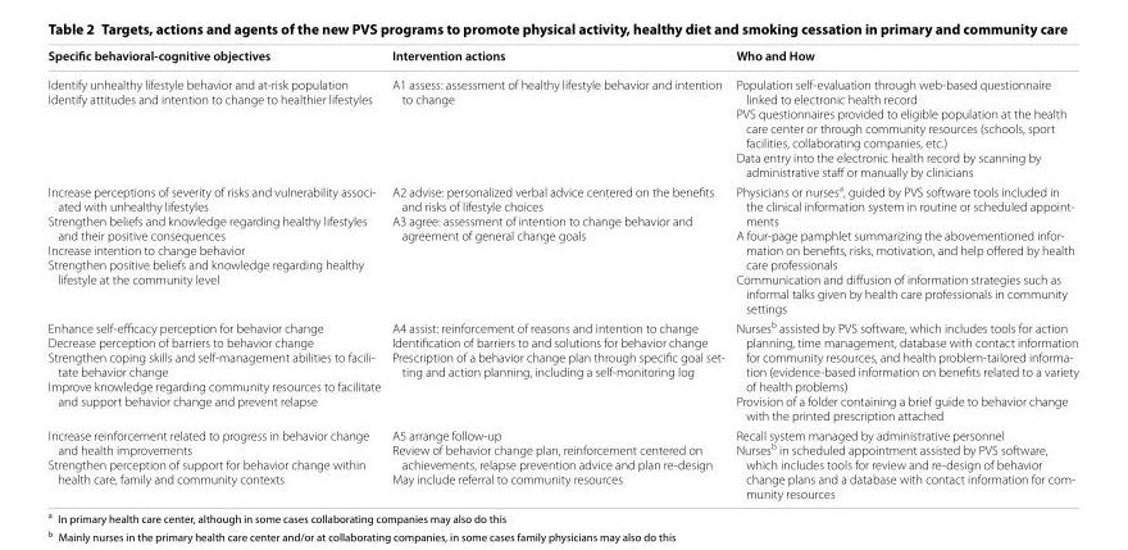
<table><thead><tr><td>Specific behavioral-cognitive objectives</td><td>Intervention actions</td><td>Who and How</td></tr></thead><tbody><tr><td>Identify unhealthy lifestyle behavior and at-risk population Identify attitudes and intention to change to healthier lifestyles</td><td>A1 assess: assessment of healthy lifestyle behavior and intention to change</td><td>Population self-evaluation through web-based questionnaire linked to electronic health record PVS questionnaires provided to eligible population at the health care center or through community resources (schools, sport facilities, collaborating companies, etc.) Data entry into the electronic health record by scanning by administrative staff or manually by clinicians</td></tr><tr><td>Increase perceptions of severity of risks and vulnerability associ- ated with unhealthy lifestyles Strengthen beliefs and knowledge regarding healthy lifestyles and their positive consequences Increase intention to change behavior Strengthen positive beliefs and knowledge regarding healthy lifestyle at the community level</td><td>A2 advise: personalized verbal advice centered on the benefits and risks of lifestyle choices A3 agree: assessment of intention to change behavior and agreement of general change goals</td><td>Physicians or nursesa, guided by PVS software tools included in the clinical information system in routine or scheduled appoint- ments A four-page pamphlet summarizing the abovementioned infor- mation on benefits, risks, motivation, and help offered by health care professionals Communication and diffusion of information strategies such as informal talks given by health care professionals in community settings</td></tr><tr><td>Enhance self-efficacy perception for behavior change Decrease perception of barriers to behavior change Strengthen coping skills and self-management abilities to facili- tate behavior change Improve knowledge regarding community resources to facilitate and support behavior change and prevent relapse</td><td>A4 assist: reinforcement of reasons and intention to change Identification of barriers to and solutions for behavior change Prescription of a behavior change plan through specific goal set- ting and action planning, including a self-monitoring log</td><td>Nursesb assisted by PVS software, which includes tools for action planning, time management, database with contact information for community resources, and health problem-tailored informa- tion (evidence-based information on benefits related to a variety of health problems) Provision of a folder containing a brief guide to behavior change with the printed prescription attached</td></tr><tr><td>Increase reinforcement related to progress in behavior change and health improvements Strengthen perception of support for behavior change within health care, family and community contexts</td><td>A5 arrange follow-up Review of behavior change plan, reinforcement centered on achievements, relapse prevention advice and plan re-design May include referral to community resources</td><td>Recall system managed by administrative personnel Nursesb in scheduled appointment assisted by PVS software, which includes tools for review and re-design of behavior change plans and a database with contact information for com- munity resources</td></tr></tbody></table>